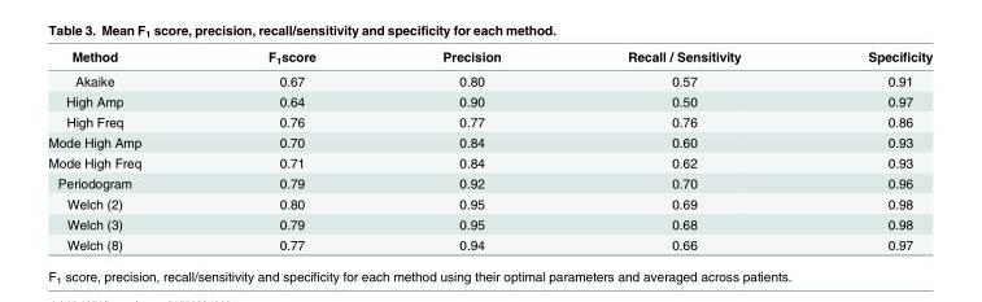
<table><thead><tr><td>Method</td><td>F<sub>1</sub>score</td><td>Precision</td><td>Recall / Sensitivity</td><td>Specificity</td></tr></thead><tbody><tr><td>Akaike</td><td>0.67</td><td>0.80</td><td>0.57</td><td>0.91</td></tr><tr><td>High Amp</td><td>0.64</td><td>0.90</td><td>0.50</td><td>0.97</td></tr><tr><td>High Freq</td><td>0.76</td><td>0.77</td><td>0.76</td><td>0.86</td></tr><tr><td>Mode High Amp</td><td>0.70</td><td>0.84</td><td>0.60</td><td>0.93</td></tr><tr><td>Mode High Freq</td><td>0.71</td><td>0.84</td><td>0.62</td><td>0.93</td></tr><tr><td>Periodogram</td><td>0.79</td><td>0.92</td><td>0.70</td><td>0.96</td></tr><tr><td>Welch (2)</td><td>0.80</td><td>0.95</td><td>0.69</td><td>0.98</td></tr><tr><td>Welch (3)</td><td>0.79</td><td>0.95</td><td>0.68</td><td>0.98</td></tr><tr><td>Welch (8)</td><td>0.77</td><td>0.94</td><td>0.66</td><td>0.97</td></tr></tbody></table>